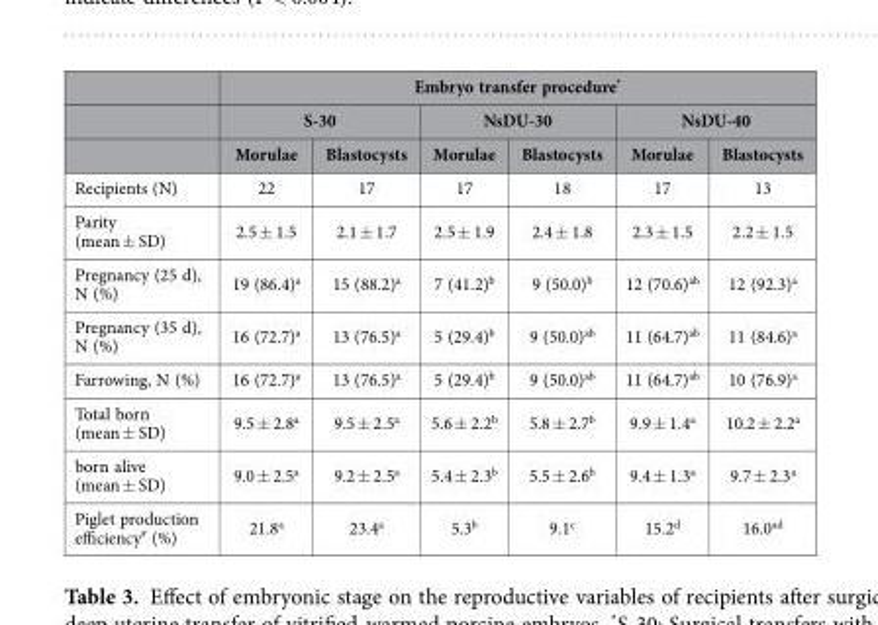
<table><thead><tr><td rowspan="3"></td><td colspan="6">Embryo transfer procedure*</td></tr><tr><td colspan="2">S-30</td><td colspan="2">NsDU-30</td><td colspan="2">NsDU-40</td></tr><tr><td>Morulae</td><td>Blastocysts</td><td>Morulae</td><td>Blastocysts</td><td>Morulae</td><td>Blastocysts</td></tr></thead><tbody><tr><td>Recipients (N)</td><td>22</td><td>17</td><td>17</td><td>18</td><td>17</td><td>13</td></tr><tr><td>Parity (mean ± SD)</td><td>2.5 ± 1.5</td><td>2.1 ± 1.7</td><td>2.5 ± 1.9</td><td>2.4 ± 1.8</td><td>2.3 ± 1.5</td><td>2.2 ± 1.5</td></tr><tr><td>Pregnancy (25 d), N (%)</td><td>19 (86.4)<sup>a</sup></td><td>15 (88.2)<sup>a</sup></td><td>7 (41.2)<sup>b</sup></td><td>9 (50.0)<sup>b</sup></td><td>12 (70.6)<sup>ab</sup></td><td>12 (92.3)<sup>a</sup></td></tr><tr><td>Pregnancy (35 d), N (%)</td><td>16 (72.7)<sup>a</sup></td><td>13 (76.5)<sup>a</sup></td><td>5 (29.4)<sup>b</sup></td><td>9 (50.0)<sup>ab</sup></td><td>11 (64.7)<sup>ab</sup></td><td>11 (84.6)<sup>a</sup></td></tr><tr><td>Farrowing, N (%)</td><td>16 (72.7)<sup>a</sup></td><td>13 (76.5)<sup>a</sup></td><td>5 (29.4)<sup>b</sup></td><td>9 (50.0)<sup>ab</sup></td><td>11 (64.7)<sup>ab</sup></td><td>10 (76.9)<sup>a</sup></td></tr><tr><td>Total born (mean ± SD)</td><td>9.5 ± 2.8<sup>a</sup></td><td>9.5 ± 2.5<sup>a</sup></td><td>5.6 ± 2.2<sup>b</sup></td><td>5.8 ± 2.7<sup>b</sup></td><td>9.9 ± 1.4<sup>a</sup></td><td>10.2 ± 2.2<sup>a</sup></td></tr><tr><td>born alive (mean ± SD)</td><td>9.0 ± 2.5<sup>a</sup></td><td>9.2 ± 2.5<sup>a</sup></td><td>5.4 ± 2.3<sup>b</sup></td><td>5.5 ± 2.6<sup>b</sup></td><td>9.4 ± 1.3<sup>a</sup></td><td>9.7 ± 2.3<sup>a</sup></td></tr><tr><td>Piglet production efficiency# (%)</td><td>21.8<sup>a</sup></td><td>23.4<sup>a</sup></td><td>5.3<sup>b</sup></td><td>9.1<sup>c</sup></td><td>15.2<sup>d</sup></td><td>16.0<sup>ad</sup></td></tr></tbody></table>